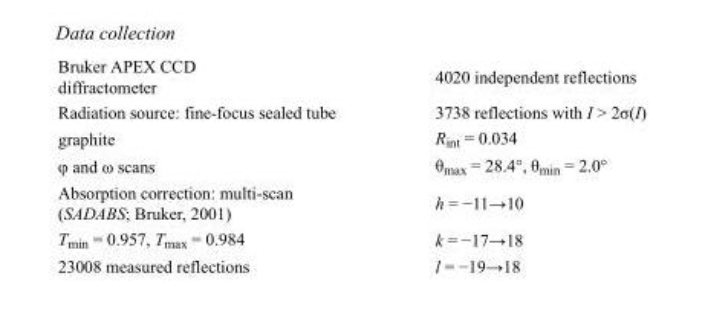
<table><tbody><tr><td>Bruker APEX CCD diffractometer</td><td>4020 independent reflections</td></tr><tr><td>Radiation source: fine-focus sealed tube</td><td>3738 reflections with I &gt; 2σ(I)</td></tr><tr><td>graphite</td><td>R<sub>int</sub> = 0.034</td></tr><tr><td>φ and ω scans</td><td>θ<sub>max</sub> = 28.4°, θ<sub>min</sub> = 2.0°</td></tr><tr><td>Absorption correction: multi-scan (SADABS; Bruker, 2001)</td><td>h = −11→10</td></tr><tr><td>T<sub>min</sub> = 0.957, T<sub>max</sub> = 0.984</td><td>k = −17→18</td></tr><tr><td>23008 measured reflections</td><td>l = −19→18</td></tr></tbody></table>